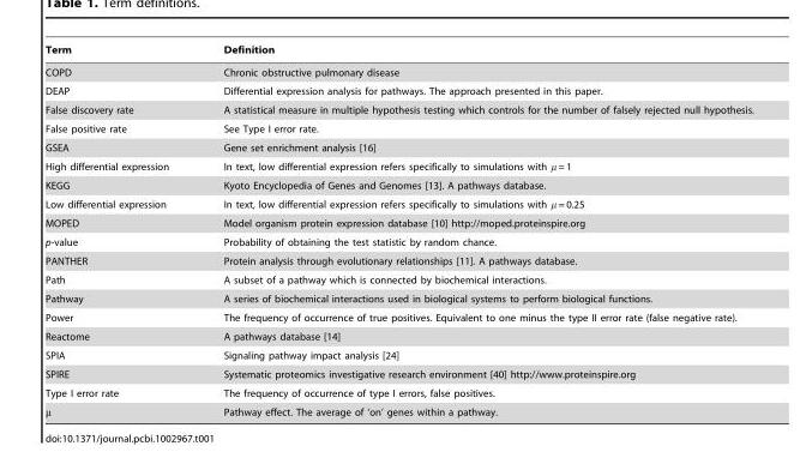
<table><thead><tr><td>Term</td><td>Definition</td></tr></thead><tbody><tr><td>COPD</td><td>Chronic obstructive pulmonary disease</td></tr><tr><td>DEAP</td><td>Differential expression analysis for pathways. The approach presented in this paper.</td></tr><tr><td>False discovery rate</td><td>A statistical measure in multiple hypothesis testing which controls for the number of falsely rejected null hypothesis.</td></tr><tr><td>False positive rate</td><td>See Type I error rate.</td></tr><tr><td>GSEA</td><td>Gene set enrichment analysis [16]</td></tr><tr><td>High differential expression</td><td>In text, low differential expression refers specifically to simulations with μ = 1</td></tr><tr><td>KEGG</td><td>Kyoto Encyclopedia of Genes and Genomes [13]. A pathways database.</td></tr><tr><td>Low differential expression</td><td>In text, low differential expression refers specifically to simulations with μ = 0.25</td></tr><tr><td>MOPED</td><td>Model organism protein expression database [10] http://moped.proteinspire.org</td></tr><tr><td>p-value</td><td>Probability of obtaining the test statistic by random chance.</td></tr><tr><td>PANTHER</td><td>Protein analysis through evolutionary relationships [11]. A pathways database.</td></tr><tr><td>Path</td><td>A subset of a pathway which is connected by biochemical interactions.</td></tr><tr><td>Pathway</td><td>A series of biochemical interactions used in biological systems to perform biological functions.</td></tr><tr><td>Power</td><td>The frequency of occurrence of true positives. Equivalent to one minus the type II error rate (false negative rate).</td></tr><tr><td>Reactome</td><td>A pathways database [14]</td></tr><tr><td>SPIA</td><td>Signaling pathway impact analysis [24]</td></tr><tr><td>SPIRE</td><td>Systematic proteomics investigative research environment [40] http://www.proteinspire.org</td></tr><tr><td>Type I error rate</td><td>The frequency of occurrence of type I errors, false positives.</td></tr><tr><td>μ</td><td>Pathway effect. The average of ‘on’ genes within a pathway.</td></tr></tbody></table>